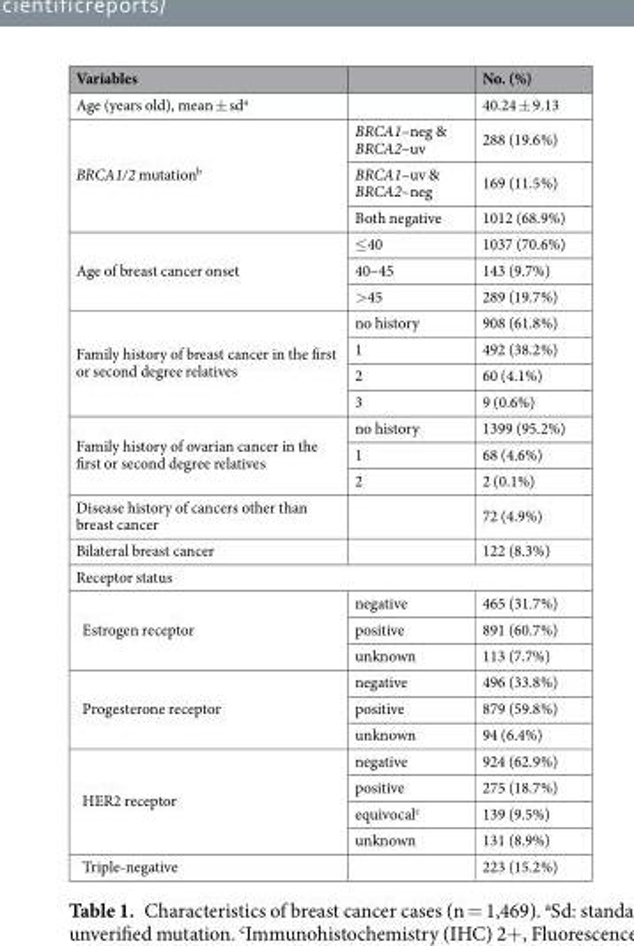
<table><thead><tr><td>Variables</td><td></td><td>No. (%)</td></tr></thead><tbody><tr><td>Age (years old), mean ± sd<sup>a</sup></td><td></td><td>40.24 ± 9.13</td></tr><tr><td rowspan="3">BRCA1/2 mutation<sup>b</sup></td><td>BRCA1–neg &amp; BRCA2–uv</td><td>288 (19.6%)</td></tr><tr><td>BRCA1–uv &amp; BRCA2–neg</td><td>169 (11.5%)</td></tr><tr><td>Both negative</td><td>1012 (68.9%)</td></tr><tr><td rowspan="3">Age of breast cancer onset</td><td>≤40</td><td>1037 (70.6%)</td></tr><tr><td>40–45</td><td>143 (9.7%)</td></tr><tr><td>&gt;45</td><td>289 (19.7%)</td></tr><tr><td rowspan="4">Family history of breast cancer in the first or second degree relatives</td><td>no history</td><td>908 (61.8%)</td></tr><tr><td>1</td><td>492 (38.2%)</td></tr><tr><td>2</td><td>60 (4.1%)</td></tr><tr><td>3</td><td>9 (0.6%)</td></tr><tr><td rowspan="3">Family history of ovarian cancer in the first or second degree relatives</td><td>no history</td><td>1399 (95.2%)</td></tr><tr><td>1</td><td>68 (4.6%)</td></tr><tr><td>2</td><td>2 (0.1%)</td></tr><tr><td>Disease history of cancers other than breast cancer</td><td></td><td>72 (4.9%)</td></tr><tr><td>Bilateral breast cancer</td><td></td><td>122 (8.3%)</td></tr><tr><td colspan="3">Receptor status</td></tr><tr><td rowspan="3">Estrogen receptor</td><td>negative</td><td>465 (31.7%)</td></tr><tr><td>positive</td><td>891 (60.7%)</td></tr><tr><td>unknown</td><td>113 (7.7%)</td></tr><tr><td rowspan="3">Progesterone receptor</td><td>negative</td><td>496 (33.8%)</td></tr><tr><td>positive</td><td>879 (59.8%)</td></tr><tr><td>unknown</td><td>94 (6.4%)</td></tr><tr><td rowspan="4">HER2 receptor</td><td>negative</td><td>924 (62.9%)</td></tr><tr><td>positive</td><td>275 (18.7%)</td></tr><tr><td>equivocal<sup>c</sup></td><td>139 (9.5%)</td></tr><tr><td>unknown</td><td>131 (8.9%)</td></tr><tr><td>Triple-negative</td><td></td><td>223 (15.2%)</td></tr></tbody></table>